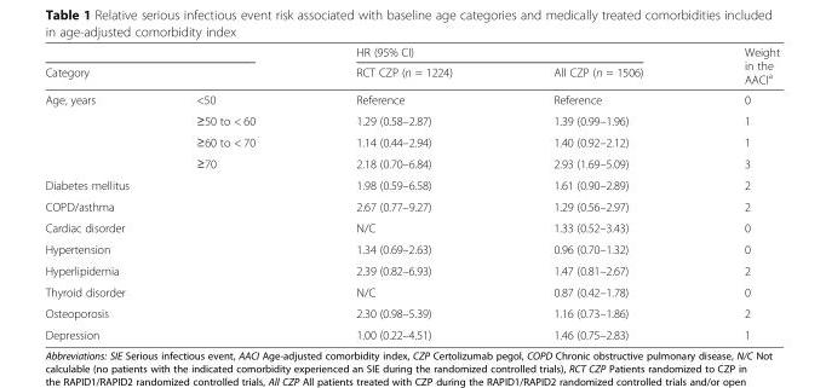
<table><thead><tr><td></td><td></td><td colspan="2">HR (95% CI)</td><td rowspan="2">Weight in the AACI<sup>a</sup></td></tr><tr><td colspan="2">Category</td><td>RCT CZP (n = 1224)</td><td>All CZP (n = 1506)</td></tr></thead><tbody><tr><td rowspan="4">Age, years</td><td>&lt;50</td><td>Reference</td><td>Reference</td><td>0</td></tr><tr><td>≥50 to &lt; 60</td><td>1.29 (0.58–2.87)</td><td>1.39 (0.99–1.96)</td><td>1</td></tr><tr><td>≥60 to &lt; 70</td><td>1.14 (0.44–2.94)</td><td>1.40 (0.92–2.12)</td><td>1</td></tr><tr><td>≥70</td><td>2.18 (0.70–6.84)</td><td>2.93 (1.69–5.09)</td><td>3</td></tr><tr><td colspan="2">Diabetes mellitus</td><td>1.98 (0.59–6.58)</td><td>1.61 (0.90–2.89)</td><td>2</td></tr><tr><td colspan="2">COPD/asthma</td><td>2.67 (0.77–9.27)</td><td>1.29 (0.56–2.97)</td><td>2</td></tr><tr><td colspan="2">Cardiac disorder</td><td>N/C</td><td>1.33 (0.52–3.43)</td><td>0</td></tr><tr><td colspan="2">Hypertension</td><td>1.34 (0.69–2.63)</td><td>0.96 (0.70–1.32)</td><td>0</td></tr><tr><td colspan="2">Hyperlipidemia</td><td>2.39 (0.82–6.93)</td><td>1.47 (0.81–2.67)</td><td>2</td></tr><tr><td colspan="2">Thyroid disorder</td><td>N/C</td><td>0.87 (0.42–1.78)</td><td>0</td></tr><tr><td colspan="2">Osteoporosis</td><td>2.30 (0.98–5.39)</td><td>1.16 (0.73–1.86)</td><td>2</td></tr><tr><td colspan="2">Depression</td><td>1.00 (0.22–4.51)</td><td>1.46 (0.75–2.83)</td><td>1</td></tr></tbody></table>